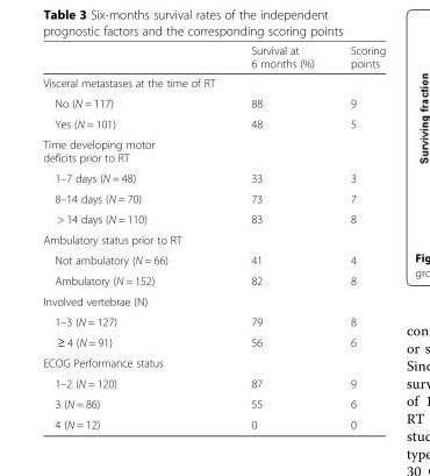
<table><thead><tr><td></td><td>Survival at 6 months (%)</td><td>Scoring points</td></tr></thead><tbody><tr><td colspan="3">Visceral metastases at the time of RT</td></tr><tr><td>No (N = 117)</td><td>88</td><td>9</td></tr><tr><td>Yes (N = 101)</td><td>48</td><td>5</td></tr><tr><td colspan="3">Time developing motor deficits prior to RT</td></tr><tr><td>1–7 days (N = 48)</td><td>33</td><td>3</td></tr><tr><td>8–14 days (N = 70)</td><td>73</td><td>7</td></tr><tr><td>&gt; 14 days (N = 110)</td><td>83</td><td>8</td></tr><tr><td colspan="3">Ambulatory status prior to RT</td></tr><tr><td>Not ambulatory (N = 66)</td><td>41</td><td>4</td></tr><tr><td>Ambulatory (N = 152)</td><td>82</td><td>8</td></tr><tr><td colspan="3">Involved vertebrae (N)</td></tr><tr><td>1–3 (N = 127)</td><td>79</td><td>8</td></tr><tr><td>≥ 4 (N = 91)</td><td>56</td><td>6</td></tr><tr><td colspan="3">ECOG Performance status</td></tr><tr><td>1–2 (N = 120)</td><td>87</td><td>9</td></tr><tr><td>3 (N = 86)</td><td>55</td><td>6</td></tr><tr><td>4 (N = 12)</td><td>0</td><td>0</td></tr></tbody></table>